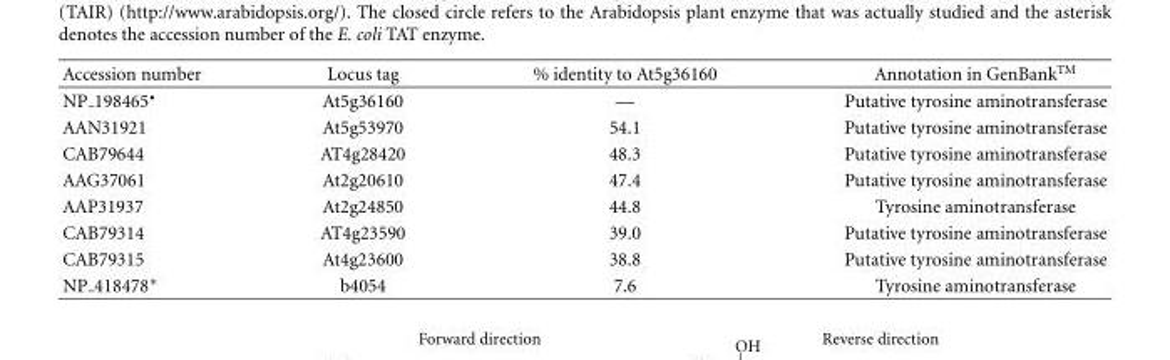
<table><thead><tr><td>Accession number</td><td>Locus tag</td><td>% identity to At5g36160</td><td>Annotation in GenBankTM</td></tr></thead><tbody><tr><td>NP 198465•</td><td>At5g36160</td><td>—</td><td>Putative tyrosine aminotransferase</td></tr><tr><td>AAN31921</td><td>At5g53970</td><td>54.1</td><td>Putative tyrosine aminotransferase</td></tr><tr><td>CAB79644</td><td>AT4g28420</td><td>48.3</td><td>Putative tyrosine aminotransferase</td></tr><tr><td>AAG37061</td><td>At2g20610</td><td>47.4</td><td>Putative tyrosine aminotransferase</td></tr><tr><td>AAP31937</td><td>At2g24850</td><td>44.8</td><td>Tyrosine aminotransferase</td></tr><tr><td>CAB79314</td><td>AT4g23590</td><td>39.0</td><td>Putative tyrosine aminotransferase</td></tr><tr><td>CAB79315</td><td>At4g23600</td><td>38.8</td><td>Putative tyrosine aminotransferase</td></tr><tr><td>NP 418478∗</td><td>b4054</td><td>7.6</td><td>Tyrosine aminotransferase</td></tr></tbody></table>